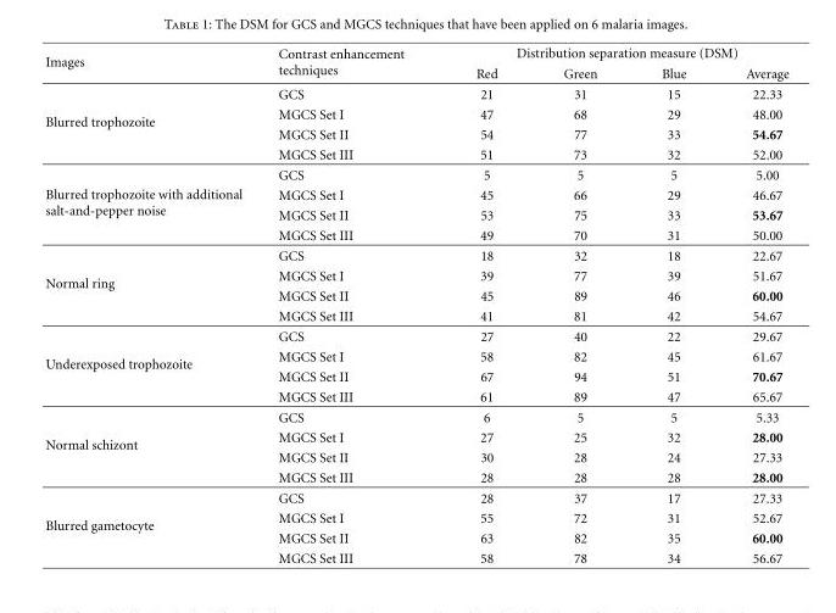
<table><thead><tr><td rowspan="2">Images</td><td rowspan="2">Contrast enhancement techniques</td><td colspan="4">Distribution separation measure (DSM)</td></tr><tr><td>Red</td><td>Green</td><td>Blue</td><td>Average</td></tr></thead><tbody><tr><td rowspan="4">Blurred trophozoite</td><td>GCS</td><td>21</td><td>31</td><td>15</td><td>22.33</td></tr><tr><td>MGCS Set I</td><td>47</td><td>68</td><td>29</td><td>48.00</td></tr><tr><td>MGCS Set II</td><td>54</td><td>77</td><td>33</td><td>54.67</td></tr><tr><td>MGCS Set III</td><td>51</td><td>73</td><td>32</td><td>52.00</td></tr><tr><td rowspan="4">Blurred trophozoite with additional salt-and-pepper noise</td><td>GCS</td><td>5</td><td>5</td><td>5</td><td>5.00</td></tr><tr><td>MGCS Set I</td><td>45</td><td>66</td><td>29</td><td>46.67</td></tr><tr><td>MGCS Set II</td><td>53</td><td>75</td><td>33</td><td>53.67</td></tr><tr><td>MGCS Set III</td><td>49</td><td>70</td><td>31</td><td>50.00</td></tr><tr><td rowspan="4">Normal ring</td><td>GCS</td><td>18</td><td>32</td><td>18</td><td>22.67</td></tr><tr><td>MGCS Set I</td><td>39</td><td>77</td><td>39</td><td>51.67</td></tr><tr><td>MGCS Set II</td><td>45</td><td>89</td><td>46</td><td>60.00</td></tr><tr><td>MGCS Set III</td><td>41</td><td>81</td><td>42</td><td>54.67</td></tr><tr><td rowspan="4">Underexposed trophozoite</td><td>GCS</td><td>27</td><td>40</td><td>22</td><td>29.67</td></tr><tr><td>MGCS Set I</td><td>58</td><td>82</td><td>45</td><td>61.67</td></tr><tr><td>MGCS Set II</td><td>67</td><td>94</td><td>51</td><td>70.67</td></tr><tr><td>MGCS Set III</td><td>61</td><td>89</td><td>47</td><td>65.67</td></tr><tr><td rowspan="4">Normal schizont</td><td>GCS</td><td>6</td><td>5</td><td>5</td><td>5.33</td></tr><tr><td>MGCS Set I</td><td>27</td><td>25</td><td>32</td><td>28.00</td></tr><tr><td>MGCS Set II</td><td>30</td><td>28</td><td>24</td><td>27.33</td></tr><tr><td>MGCS Set III</td><td>28</td><td>28</td><td>28</td><td>28.00</td></tr><tr><td rowspan="4">Blurred gametocyte</td><td>GCS</td><td>28</td><td>37</td><td>17</td><td>27.33</td></tr><tr><td>MGCS Set I</td><td>55</td><td>72</td><td>31</td><td>52.67</td></tr><tr><td>MGCS Set II</td><td>63</td><td>82</td><td>35</td><td>60.00</td></tr><tr><td>MGCS Set III</td><td>58</td><td>78</td><td>34</td><td>56.67</td></tr></tbody></table>